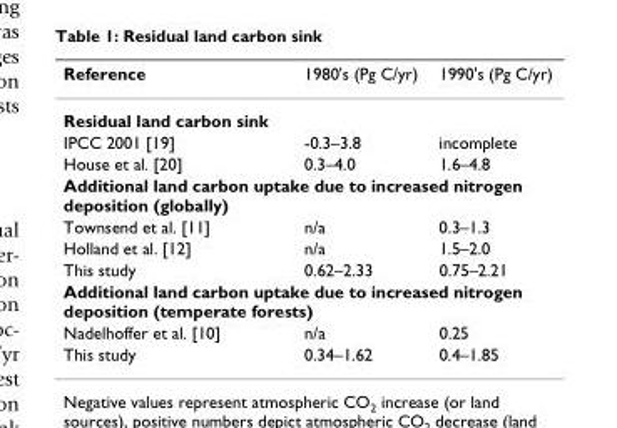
<table><thead><tr><td>Reference</td><td>1980&#x27;s (Pg C/yr)</td><td>1990&#x27;s (Pg C/yr)</td></tr></thead><tbody><tr><td colspan="3">Residual land carbon sink</td></tr><tr><td>IPCC 2001 [19]</td><td>-0.3–3.8</td><td>incomplete</td></tr><tr><td>House et al. [20]</td><td>0.3–4.0</td><td>1.6–4.8</td></tr><tr><td colspan="3">Additional land carbon uptake due to increased nitrogen deposition (globally)</td></tr><tr><td>Townsend et al. [11]</td><td>n/a</td><td>0.3–1.3</td></tr><tr><td>Holland et al. [12]</td><td>n/a</td><td>1.5–2.0</td></tr><tr><td>This study</td><td>0.62–2.33</td><td>0.75–2.21</td></tr><tr><td colspan="3">Additional land carbon uptake due to increased nitrogen deposition (temperate forests)</td></tr><tr><td>Nadelhoffer et al. [10]</td><td>n/a</td><td>0.25</td></tr><tr><td>This study</td><td>0.34–1.62</td><td>0.4–1.85</td></tr></tbody></table>